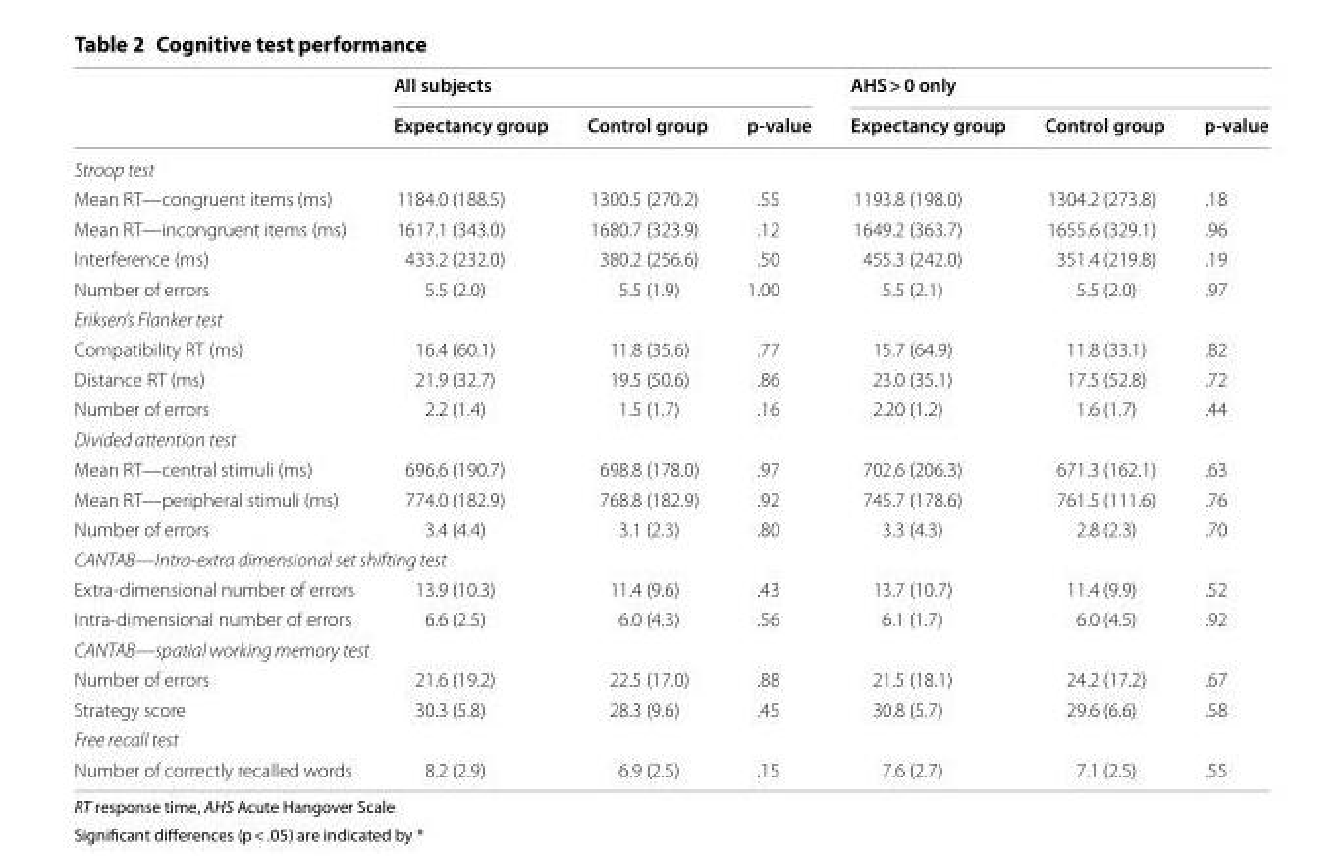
<table><thead><tr><td rowspan="2"></td><td colspan="3">All subjects</td><td colspan="3">AHS &gt; 0 only</td></tr><tr><td>Expectancy group</td><td>Control group</td><td>p-value</td><td>Expectancy group</td><td>Control group</td><td>p-value</td></tr></thead><tbody><tr><td colspan="7">Stroop test</td></tr><tr><td>Mean RT—congruent items (ms)</td><td>1184.0 (188.5)</td><td>1300.5 (270.2)</td><td>.55</td><td>1193.8 (198.0)</td><td>1304.2 (273.8)</td><td>.18</td></tr><tr><td>Mean RT—incongruent items (ms)</td><td>1617.1 (343.0)</td><td>1680.7 (323.9)</td><td>.12</td><td>1649.2 (363.7)</td><td>1655.6 (329.1)</td><td>.96</td></tr><tr><td>Interference (ms)</td><td>433.2 (232.0)</td><td>380.2 (256.6)</td><td>.50</td><td>455.3 (242.0)</td><td>351.4 (219.8)</td><td>.19</td></tr><tr><td>Number of errors</td><td>5.5 (2.0)</td><td>5.5 (1.9)</td><td>1.00</td><td>5.5 (2.1)</td><td>5.5 (2.0)</td><td>.97</td></tr><tr><td colspan="7">Eriksen’s Flanker test</td></tr><tr><td>Compatibility RT (ms)</td><td>16.4 (60.1)</td><td>11.8 (35.6)</td><td>.77</td><td>15.7 (64.9)</td><td>11.8 (33.1)</td><td>.82</td></tr><tr><td>Distance RT (ms)</td><td>21.9 (32.7)</td><td>19.5 (50.6)</td><td>.86</td><td>23.0 (35.1)</td><td>17.5 (52.8)</td><td>.72</td></tr><tr><td>Number of errors</td><td>2.2 (1.4)</td><td>1.5 (1.7)</td><td>.16</td><td>2.20 (1.2)</td><td>1.6 (1.7)</td><td>.44</td></tr><tr><td colspan="7">Divided attention test</td></tr><tr><td>Mean RT—central stimuli (ms)</td><td>696.6 (190.7)</td><td>698.8 (178.0)</td><td>.97</td><td>702.6 (206.3)</td><td>671.3 (162.1)</td><td>.63</td></tr><tr><td>Mean RT—peripheral stimuli (ms)</td><td>774.0 (182.9)</td><td>768.8 (182.9)</td><td>.92</td><td>745.7 (178.6)</td><td>761.5 (111.6)</td><td>.76</td></tr><tr><td>Number of errors</td><td>3.4 (4.4)</td><td>3.1 (2.3)</td><td>.80</td><td>3.3 (4.3)</td><td>2.8 (2.3)</td><td>.70</td></tr><tr><td colspan="7">CANTAB—Intra-extra dimensional set shifting test</td></tr><tr><td>Extra-dimensional number of errors</td><td>13.9 (10.3)</td><td>11.4 (9.6)</td><td>.43</td><td>13.7 (10.7)</td><td>11.4 (9.9)</td><td>.52</td></tr><tr><td>Intra-dimensional number of errors</td><td>6.6 (2.5)</td><td>6.0 (4.3)</td><td>.56</td><td>6.1 (1.7)</td><td>6.0 (4.5)</td><td>.92</td></tr><tr><td colspan="7">CANTAB—spatial working memory test</td></tr><tr><td>Number of errors</td><td>21.6 (19.2)</td><td>22.5 (17.0)</td><td>.88</td><td>21.5 (18.1)</td><td>24.2 (17.2)</td><td>.67</td></tr><tr><td>Strategy score</td><td>30.3 (5.8)</td><td>28.3 (9.6)</td><td>.45</td><td>30.8 (5.7)</td><td>29.6 (6.6)</td><td>.58</td></tr><tr><td colspan="7">Free recall test</td></tr><tr><td>Number of correctly recalled words</td><td>8.2 (2.9)</td><td>6.9 (2.5)</td><td>.15</td><td>7.6 (2.7)</td><td>7.1 (2.5)</td><td>.55</td></tr></tbody></table>